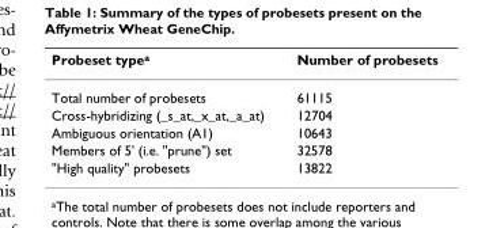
<table><thead><tr><td>Probeset type<sup>a</sup></td><td>Number of probesets</td></tr></thead><tbody><tr><td>Total number of probesets</td><td>61115</td></tr><tr><td>Cross-hybridizing (_s_at,_x_at,_a_at)</td><td>12704</td></tr><tr><td>Ambiguous orientation (A1)</td><td>10643</td></tr><tr><td>Members of 5&#x27; (i.e. &quot;prune&quot;) set</td><td>32578</td></tr><tr><td>&quot;High quality&quot; probesets</td><td>13822</td></tr></tbody></table>